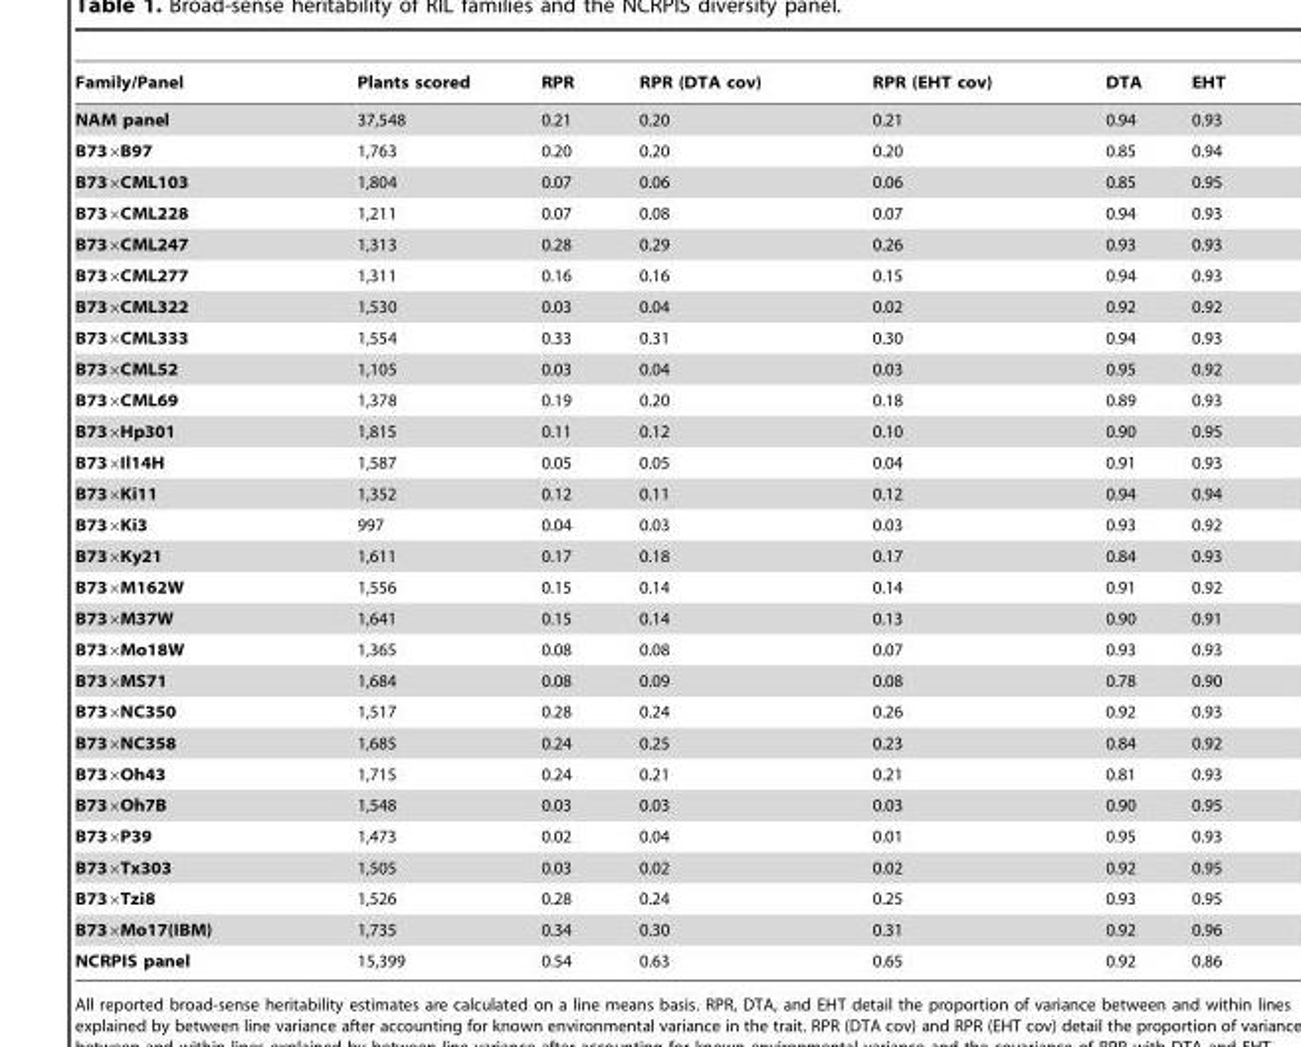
<table><thead><tr><td>Family/Panel</td><td>Plants scored</td><td>RPR</td><td>RPR (DTA cov)</td><td>RPR (EHT cov)</td><td>DTA</td><td>EHT</td></tr></thead><tbody><tr><td>NAM panel</td><td>37,548</td><td>0.21</td><td>0.20</td><td>0.21</td><td>0.94</td><td>0.93</td></tr><tr><td>B73×B97</td><td>1,763</td><td>0.20</td><td>0.20</td><td>0.20</td><td>0.85</td><td>0.94</td></tr><tr><td>B73×CML103</td><td>1,804</td><td>0.07</td><td>0.06</td><td>0.06</td><td>0.85</td><td>0.95</td></tr><tr><td>B73×CML228</td><td>1,211</td><td>0.07</td><td>0.08</td><td>0.07</td><td>0.94</td><td>0.93</td></tr><tr><td>B73×CML247</td><td>1,313</td><td>0.28</td><td>0.29</td><td>0.26</td><td>0.93</td><td>0.93</td></tr><tr><td>B73×CML277</td><td>1,311</td><td>0.16</td><td>0.16</td><td>0.15</td><td>0.94</td><td>0.93</td></tr><tr><td>B73×CML322</td><td>1,530</td><td>0.03</td><td>0.04</td><td>0.02</td><td>0.92</td><td>0.92</td></tr><tr><td>B73×CML333</td><td>1,554</td><td>0.33</td><td>0.31</td><td>0.30</td><td>0.94</td><td>0.93</td></tr><tr><td>B73×CML52</td><td>1,105</td><td>0.03</td><td>0.04</td><td>0.03</td><td>0.95</td><td>0.92</td></tr><tr><td>B73×CML69</td><td>1,378</td><td>0.19</td><td>0.20</td><td>0.18</td><td>0.89</td><td>0.93</td></tr><tr><td>B73×Hp301</td><td>1,815</td><td>0.11</td><td>0.12</td><td>0.10</td><td>0.90</td><td>0.95</td></tr><tr><td>B73×Il14H</td><td>1,587</td><td>0.05</td><td>0.05</td><td>0.04</td><td>0.91</td><td>0.93</td></tr><tr><td>B73×Ki11</td><td>1,352</td><td>0.12</td><td>0.11</td><td>0.12</td><td>0.94</td><td>0.94</td></tr><tr><td>B73×Ki3</td><td>997</td><td>0.04</td><td>0.03</td><td>0.03</td><td>0.93</td><td>0.92</td></tr><tr><td>B73×Ky21</td><td>1,611</td><td>0.17</td><td>0.18</td><td>0.17</td><td>0.84</td><td>0.93</td></tr><tr><td>B73×M162W</td><td>1,556</td><td>0.15</td><td>0.14</td><td>0.14</td><td>0.91</td><td>0.92</td></tr><tr><td>B73×M37W</td><td>1,641</td><td>0.15</td><td>0.14</td><td>0.13</td><td>0.90</td><td>0.91</td></tr><tr><td>B73×Mo18W</td><td>1,365</td><td>0.08</td><td>0.08</td><td>0.07</td><td>0.93</td><td>0.93</td></tr><tr><td>B73×MS71</td><td>1,684</td><td>0.08</td><td>0.09</td><td>0.08</td><td>0.78</td><td>0.90</td></tr><tr><td>B73×NC350</td><td>1,517</td><td>0.28</td><td>0.24</td><td>0.26</td><td>0.92</td><td>0.93</td></tr><tr><td>B73×NC358</td><td>1,685</td><td>0.24</td><td>0.25</td><td>0.23</td><td>0.84</td><td>0.92</td></tr><tr><td>B73×Oh43</td><td>1,715</td><td>0.24</td><td>0.21</td><td>0.21</td><td>0.81</td><td>0.93</td></tr><tr><td>B73×Oh7B</td><td>1,548</td><td>0.03</td><td>0.03</td><td>0.03</td><td>0.90</td><td>0.95</td></tr><tr><td>B73×P39</td><td>1,473</td><td>0.02</td><td>0.04</td><td>0.01</td><td>0.95</td><td>0.93</td></tr><tr><td>B73×Tx303</td><td>1,505</td><td>0.03</td><td>0.02</td><td>0.02</td><td>0.92</td><td>0.95</td></tr><tr><td>B73×Tzi8</td><td>1,526</td><td>0.28</td><td>0.24</td><td>0.25</td><td>0.93</td><td>0.95</td></tr><tr><td>B73×Mo17(IBM)</td><td>1,735</td><td>0.34</td><td>0.30</td><td>0.31</td><td>0.92</td><td>0.96</td></tr><tr><td>NCRPIS panel</td><td>15,399</td><td>0.54</td><td>0.63</td><td>0.65</td><td>0.92</td><td>0.86</td></tr></tbody></table>